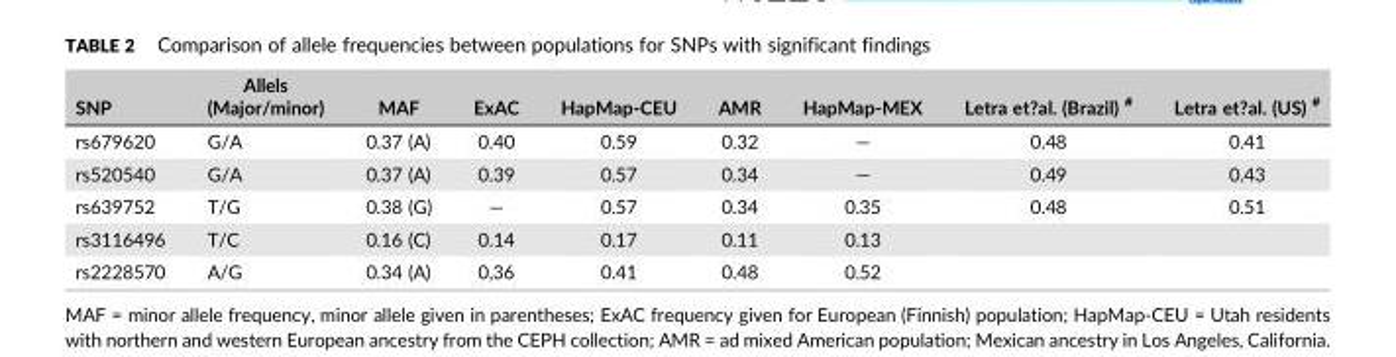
<table><thead><tr><td>SNP</td><td>Allels (Major/minor)</td><td>MAF</td><td>ExAC</td><td>HapMap‐CEU</td><td>AMR</td><td>HapMap‐MEX</td><td>Letra et?al. (Brazil) #</td><td>Letra et?al. (US) #</td></tr></thead><tbody><tr><td>rs679620</td><td>G/A</td><td>0.37 (A)</td><td>0.40</td><td>0.59</td><td>0.32</td><td>—</td><td>0.48</td><td>0.41</td></tr><tr><td>rs520540</td><td>G/A</td><td>0.37 (A)</td><td>0.39</td><td>0.57</td><td>0.34</td><td>—</td><td>0.49</td><td>0.43</td></tr><tr><td>rs639752</td><td>T/G</td><td>0.38 (G)</td><td>—</td><td>0.57</td><td>0.34</td><td>0.35</td><td>0.48</td><td>0.51</td></tr><tr><td>rs3116496</td><td>T/C</td><td>0.16 (C)</td><td>0.14</td><td>0.17</td><td>0.11</td><td>0.13</td><td></td><td></td></tr><tr><td>rs2228570</td><td>A/G</td><td>0.34 (A)</td><td>0,36</td><td>0.41</td><td>0.48</td><td>0.52</td><td></td><td></td></tr></tbody></table>